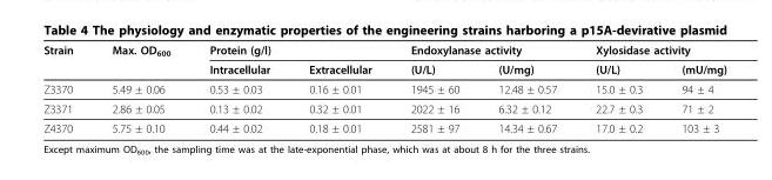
<table><thead><tr><td rowspan="2">Strain</td><td rowspan="2">Max. OD<sub>600</sub></td><td colspan="2">Protein (g/l)</td><td colspan="2">Endoxylanase activity</td><td colspan="2">Xylosidase activity</td></tr><tr><td>Intracellular</td><td>Extracellular</td><td>(U/L)</td><td>(U/mg)</td><td>(U/L)</td><td>(mU/mg)</td></tr></thead><tbody><tr><td>Z3370</td><td>5.49 ± 0.06</td><td>0.53 ± 0.03</td><td>0.16 ± 0.01</td><td>1945 ± 60</td><td>12.48 ± 0.57</td><td>15.0 ± 0.3</td><td>94 ± 4</td></tr><tr><td>Z3371</td><td>2.86 ± 0.05</td><td>0.13 ± 0.02</td><td>0.32 ± 0.01</td><td>2022 ± 16</td><td>6.32 ± 0.12</td><td>22.7 ± 0.3</td><td>71 ± 2</td></tr><tr><td>Z4370</td><td>5.75 ± 0.10</td><td>0.44 ± 0.02</td><td>0.18 ± 0.01</td><td>2581 ± 97</td><td>14.34 ± 0.67</td><td>17.0 ± 0.2</td><td>103 ± 3</td></tr></tbody></table>